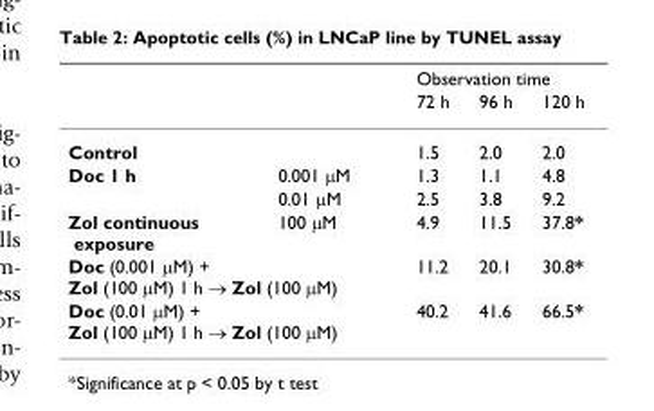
<table><thead><tr><td rowspan="2"></td><td rowspan="2"></td><td colspan="3">Observation time</td></tr><tr><td>72 h</td><td>96 h</td><td>120 h</td></tr></thead><tbody><tr><td>Control</td><td></td><td>1.5</td><td>2.0</td><td>2.0</td></tr><tr><td rowspan="2">Doc 1 h</td><td>0.001 μM</td><td>1.3</td><td>1.1</td><td>4.8</td></tr><tr><td>0.01 μM</td><td>2.5</td><td>3.8</td><td>9.2</td></tr><tr><td>Zol continuous exposure</td><td>100 μM</td><td>4.9</td><td>11.5</td><td>37.8*</td></tr><tr><td colspan="2">Doc (0.001 μM) + Zol (100 μM) 1 h → Zol (100 μM)</td><td>11.2</td><td>20.1</td><td>30.8*</td></tr><tr><td colspan="2">Doc (0.01 μM) + Zol (100 μM) 1 h → Zol (100 μM)</td><td>40.2</td><td>41.6</td><td>66.5*</td></tr></tbody></table>